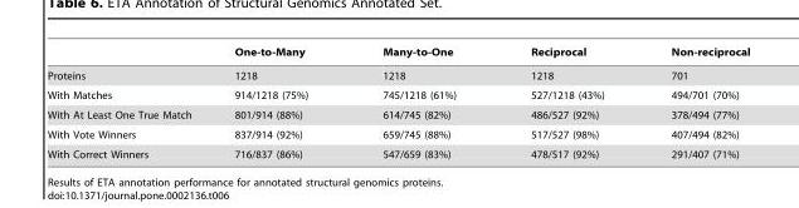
<table><thead><tr><td></td><td>One-to-Many</td><td>Many-to-One</td><td>Reciprocal</td><td>Non-reciprocal</td></tr></thead><tbody><tr><td>Proteins</td><td>1218</td><td>1218</td><td>1218</td><td>701</td></tr><tr><td>With Matches</td><td>914/1218 (75%)</td><td>745/1218 (61%)</td><td>527/1218 (43%)</td><td>494/701 (70%)</td></tr><tr><td>With At Least One True Match</td><td>801/914 (88%)</td><td>614/745 (82%)</td><td>486/527 (92%)</td><td>378/494 (77%)</td></tr><tr><td>With Vote Winners</td><td>837/914 (92%)</td><td>659/745 (88%)</td><td>517/527 (98%)</td><td>407/494 (82%)</td></tr><tr><td>With Correct Winners</td><td>716/837 (86%)</td><td>547/659 (83%)</td><td>478/517 (92%)</td><td>291/407 (71%)</td></tr></tbody></table>